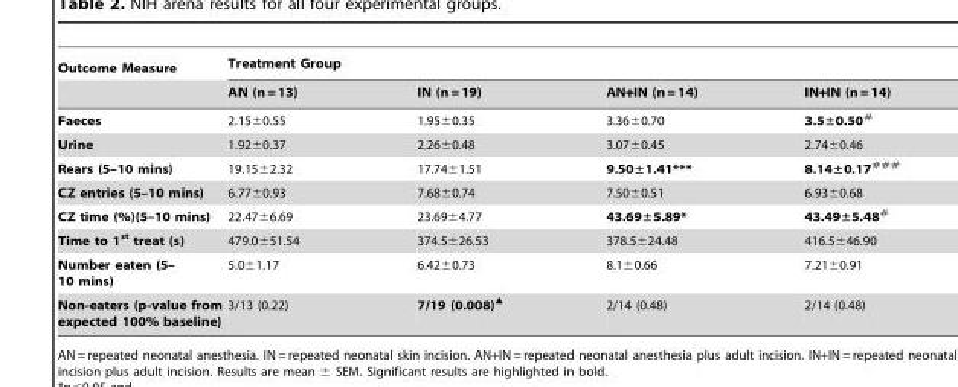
<table><thead><tr><td rowspan="2">Outcome Measure</td><td colspan="4">Treatment Group</td></tr><tr><td>AN (n = 13)</td><td>IN (n = 19)</td><td>AN+IN (n = 14)</td><td>IN+IN (n = 14)</td></tr></thead><tbody><tr><td>Faeces</td><td>2.15±0.55</td><td>1.95±0.35</td><td>3.36±0.70</td><td>3.5±0.50#</td></tr><tr><td>Urine</td><td>1.92±0.37</td><td>2.26±0.48</td><td>3.07±0.45</td><td>2.74±0.46</td></tr><tr><td>Rears (5–10 mins)</td><td>19.15±2.32</td><td>17.74±1.51</td><td>9.50±1.41***</td><td>8.14±0.17###</td></tr><tr><td>CZ entries (5–10 mins)</td><td>6.77±0.93</td><td>7.68±0.74</td><td>7.50±0.51</td><td>6.93±0.68</td></tr><tr><td>CZ time (%)(5–10 mins)</td><td>22.47±6.69</td><td>23.69±4.77</td><td>43.69±5.89*</td><td>43.49±5.48#</td></tr><tr><td>Time to 1<sup>st</sup> treat (s)</td><td>479.0±51.54</td><td>374.5±26.53</td><td>378.5±24.48</td><td>416.5±46.90</td></tr><tr><td>Number eaten (5– 10 mins)</td><td>5.0±1.17</td><td>6.42±0.73</td><td>8.1±0.66</td><td>7.21±0.91</td></tr><tr><td>Non-eaters (p-value from expected 100% baseline)</td><td>3/13 (0.22)</td><td>7/19 (0.008)▴</td><td>2/14 (0.48)</td><td>2/14 (0.48)</td></tr></tbody></table>